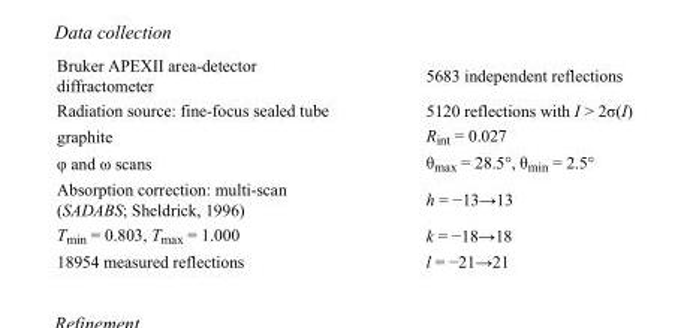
<table><tbody><tr><td>Bruker APEXII area-detector diffractometer</td><td>5683 independent reflections</td></tr><tr><td>Radiation source: fine-focus sealed tube</td><td>5120 reflections with I &gt; 2σ(I)</td></tr><tr><td>graphite</td><td>R<sub>int</sub> = 0.027</td></tr><tr><td>φ and ω scans</td><td>θ<sub>max</sub> = 28.5°, θ<sub>min</sub> = 2.5°</td></tr><tr><td>Absorption correction: multi-scan (SADABS; Sheldrick, 1996)</td><td>h = −13→13</td></tr><tr><td>T<sub>min</sub> = 0.803, T<sub>max</sub> = 1.000</td><td>k = −18→18</td></tr><tr><td>18954 measured reflections</td><td>l = −21→21</td></tr></tbody></table>